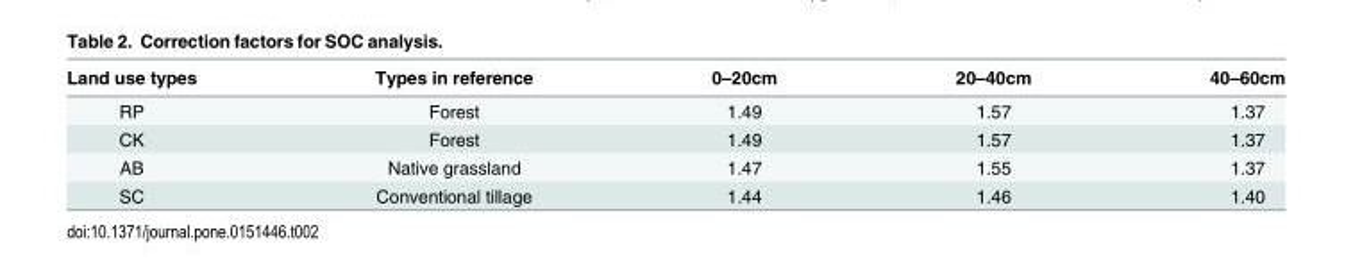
<table><thead><tr><td>Land use types</td><td>Types in reference</td><td>0–20cm</td><td>20–40cm</td><td>40–60cm</td></tr></thead><tbody><tr><td>RP</td><td>Forest</td><td>1.49</td><td>1.57</td><td>1.37</td></tr><tr><td>CK</td><td>Forest</td><td>1.49</td><td>1.57</td><td>1.37</td></tr><tr><td>AB</td><td>Native grassland</td><td>1.47</td><td>1.55</td><td>1.37</td></tr><tr><td>SC</td><td>Conventional tillage</td><td>1.44</td><td>1.46</td><td>1.40</td></tr></tbody></table>